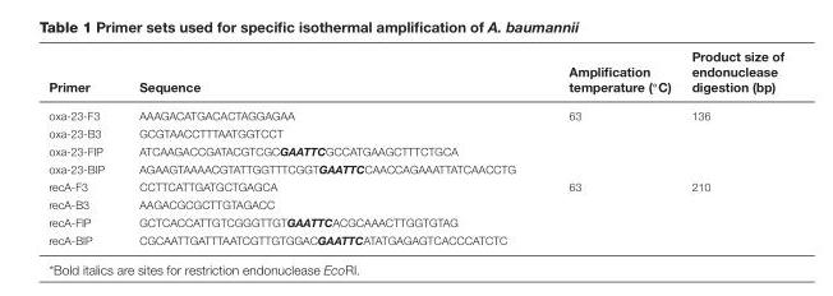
<table><thead><tr><td>Primer</td><td>Sequence</td><td>Amplification temperature (◦C)</td><td>Product size of endonuclease digestion (bp)</td></tr></thead><tbody><tr><td>oxa-23-F3</td><td>AAAGACATGACACTAGGAGAA</td><td>63</td><td>136</td></tr><tr><td>oxa-23-B3</td><td>GCGTAACCTTTAATGGTCCT</td><td></td><td></td></tr><tr><td>oxa-23-FIP</td><td>ATCAAGACCGATACGTCGCGAATTCGCCATGAAGCTTTCTGCA</td><td></td><td></td></tr><tr><td>oxa-23-BIP</td><td>AGAAGTAAAACGTATTGGTTTCGGTGAATTCCAACCAGAAATTATCAACCTG</td><td></td><td></td></tr><tr><td>recA-F3</td><td>CCTTCATTGATGCTGAGCA</td><td>63</td><td>210</td></tr><tr><td>recA-B3</td><td>AAGACGCGCTTGTAGACC</td><td></td><td></td></tr><tr><td>recA-FIP</td><td>GCTCACCATTGTCGGGTTGTGAATTCACGCAAACTTGGTGTAG</td><td></td><td></td></tr><tr><td>recA-BIP</td><td>CGCAATTGATTTAATCGTTGTGGACGAATTCATATGAGAGTCACCCATCTC</td><td></td><td></td></tr></tbody></table>